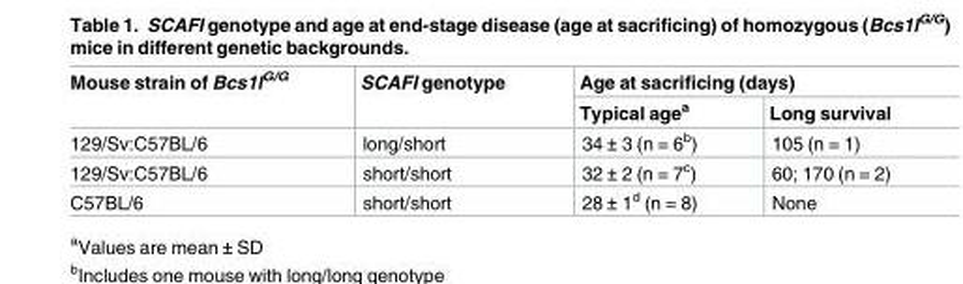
<table><thead><tr><td rowspan="2">Mouse strain of Bcs1l<sup>G/G</sup></td><td rowspan="2">SCAFI genotype</td><td colspan="2">Age at sacrificing (days)</td></tr><tr><td>Typical age<sup>a</sup></td><td>Long survival</td></tr></thead><tbody><tr><td>129/Sv:C57BL/6</td><td>long/short</td><td>34 ± 3 (n = 6<sup>b</sup>)</td><td>105 (n = 1)</td></tr><tr><td>129/Sv:C57BL/6</td><td>short/short</td><td>32 ± 2 (n = 7<sup>c</sup>)</td><td>60; 170 (n = 2)</td></tr><tr><td>C57BL/6</td><td>short/short</td><td>28 ± 1<sup>d</sup> (n = 8)</td><td>None</td></tr></tbody></table>